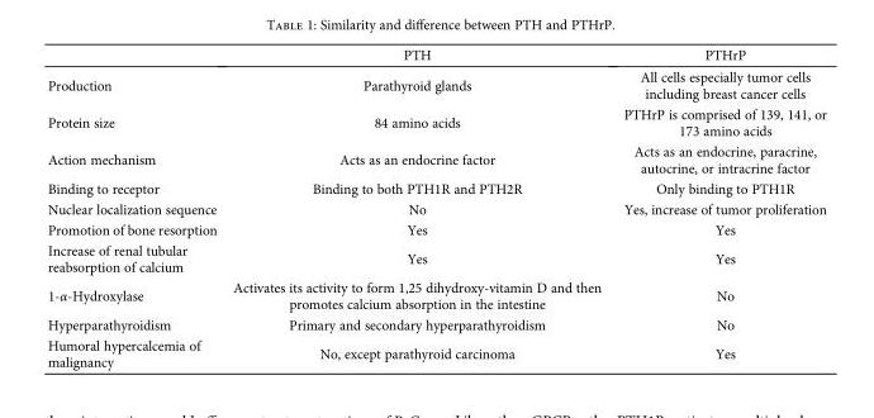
<table><thead><tr><td></td><td>PTH</td><td>PTHrP</td></tr></thead><tbody><tr><td>Production</td><td>Parathyroid glands</td><td>All cells especially tumor cells including breast cancer cells</td></tr><tr><td>Protein size</td><td>84 amino acids</td><td>PTHrP is comprised of 139, 141, or 173 amino acids</td></tr><tr><td>Action mechanism</td><td>Acts as an endocrine factor</td><td>Acts as an endocrine, paracrine, autocrine, or intracrine factor</td></tr><tr><td>Binding to receptor</td><td>Binding to both PTH1R and PTH2R</td><td>Only binding to PTH1R</td></tr><tr><td>Nuclear localization sequence</td><td>No</td><td>Yes, increase of tumor proliferation</td></tr><tr><td>Promotion of bone resorption</td><td>Yes</td><td>Yes</td></tr><tr><td>Increase of renal tubular reabsorption of calcium</td><td>Yes</td><td>Yes</td></tr><tr><td>1-α-Hydroxylase</td><td>Activates its activity to form 1,25 dihydroxy-vitamin D and then promotes calcium absorption in the intestine</td><td>No</td></tr><tr><td>Hyperparathyroidism</td><td>Primary and secondary hyperparathyroidism</td><td>No</td></tr><tr><td>Humoral hypercalcemia of malignancy</td><td>No, except parathyroid carcinoma</td><td>Yes</td></tr></tbody></table>